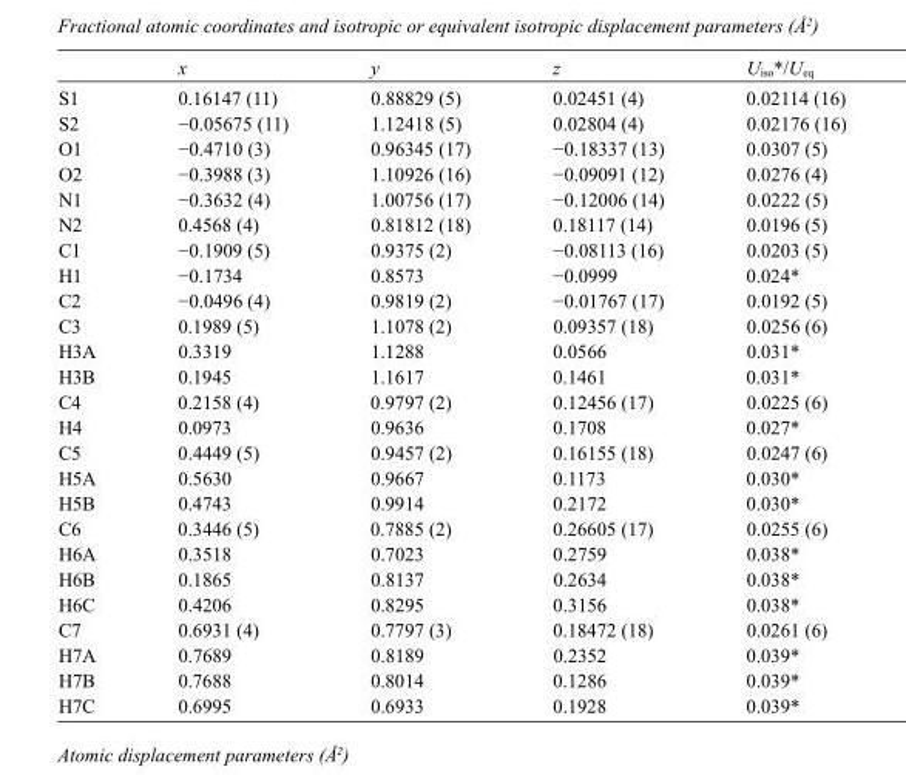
<table><thead><tr><td></td><td>x</td><td>y</td><td>z</td><td>U<sub>iso</sub>*/U<sub>eq</sub></td></tr></thead><tbody><tr><td>S1</td><td>0.16147 (11)</td><td>0.88829 (5)</td><td>0.02451 (4)</td><td>0.02114 (16)</td></tr><tr><td>S2</td><td>−0.05675 (11)</td><td>1.12418 (5)</td><td>0.02804 (4)</td><td>0.02176 (16)</td></tr><tr><td>O1</td><td>−0.4710 (3)</td><td>0.96345 (17)</td><td>−0.18337 (13)</td><td>0.0307 (5)</td></tr><tr><td>O2</td><td>−0.3988 (3)</td><td>1.10926 (16)</td><td>−0.09091 (12)</td><td>0.0276 (4)</td></tr><tr><td>N1</td><td>−0.3632 (4)</td><td>1.00756 (17)</td><td>−0.12006 (14)</td><td>0.0222 (5)</td></tr><tr><td>N2</td><td>0.4568 (4)</td><td>0.81812 (18)</td><td>0.18117 (14)</td><td>0.0196 (5)</td></tr><tr><td>C1</td><td>−0.1909 (5)</td><td>0.9375 (2)</td><td>−0.08113 (16)</td><td>0.0203 (5)</td></tr><tr><td>H1</td><td>−0.1734</td><td>0.8573</td><td>−0.0999</td><td>0.024*</td></tr><tr><td>C2</td><td>−0.0496 (4)</td><td>0.9819 (2)</td><td>−0.01767 (17)</td><td>0.0192 (5)</td></tr><tr><td>C3</td><td>0.1989 (5)</td><td>1.1078 (2)</td><td>0.09357 (18)</td><td>0.0256 (6)</td></tr><tr><td>H3A</td><td>0.3319</td><td>1.1288</td><td>0.0566</td><td>0.031*</td></tr><tr><td>H3B</td><td>0.1945</td><td>1.1617</td><td>0.1461</td><td>0.031*</td></tr><tr><td>C4</td><td>0.2158 (4)</td><td>0.9797 (2)</td><td>0.12456 (17)</td><td>0.0225 (6)</td></tr><tr><td>H4</td><td>0.0973</td><td>0.9636</td><td>0.1708</td><td>0.027*</td></tr><tr><td>C5</td><td>0.4449 (5)</td><td>0.9457 (2)</td><td>0.16155 (18)</td><td>0.0247 (6)</td></tr><tr><td>H5A</td><td>0.5630</td><td>0.9667</td><td>0.1173</td><td>0.030*</td></tr><tr><td>H5B</td><td>0.4743</td><td>0.9914</td><td>0.2172</td><td>0.030*</td></tr><tr><td>C6</td><td>0.3446 (5)</td><td>0.7885 (2)</td><td>0.26605 (17)</td><td>0.0255 (6)</td></tr><tr><td>H6A</td><td>0.3518</td><td>0.7023</td><td>0.2759</td><td>0.038*</td></tr><tr><td>H6B</td><td>0.1865</td><td>0.8137</td><td>0.2634</td><td>0.038*</td></tr><tr><td>H6C</td><td>0.4206</td><td>0.8295</td><td>0.3156</td><td>0.038*</td></tr><tr><td>C7</td><td>0.6931 (4)</td><td>0.7797 (3)</td><td>0.18472 (18)</td><td>0.0261 (6)</td></tr><tr><td>H7A</td><td>0.7689</td><td>0.8189</td><td>0.2352</td><td>0.039*</td></tr><tr><td>H7B</td><td>0.7688</td><td>0.8014</td><td>0.1286</td><td>0.039*</td></tr><tr><td>H7C</td><td>0.6995</td><td>0.6933</td><td>0.1928</td><td>0.039*</td></tr></tbody></table>